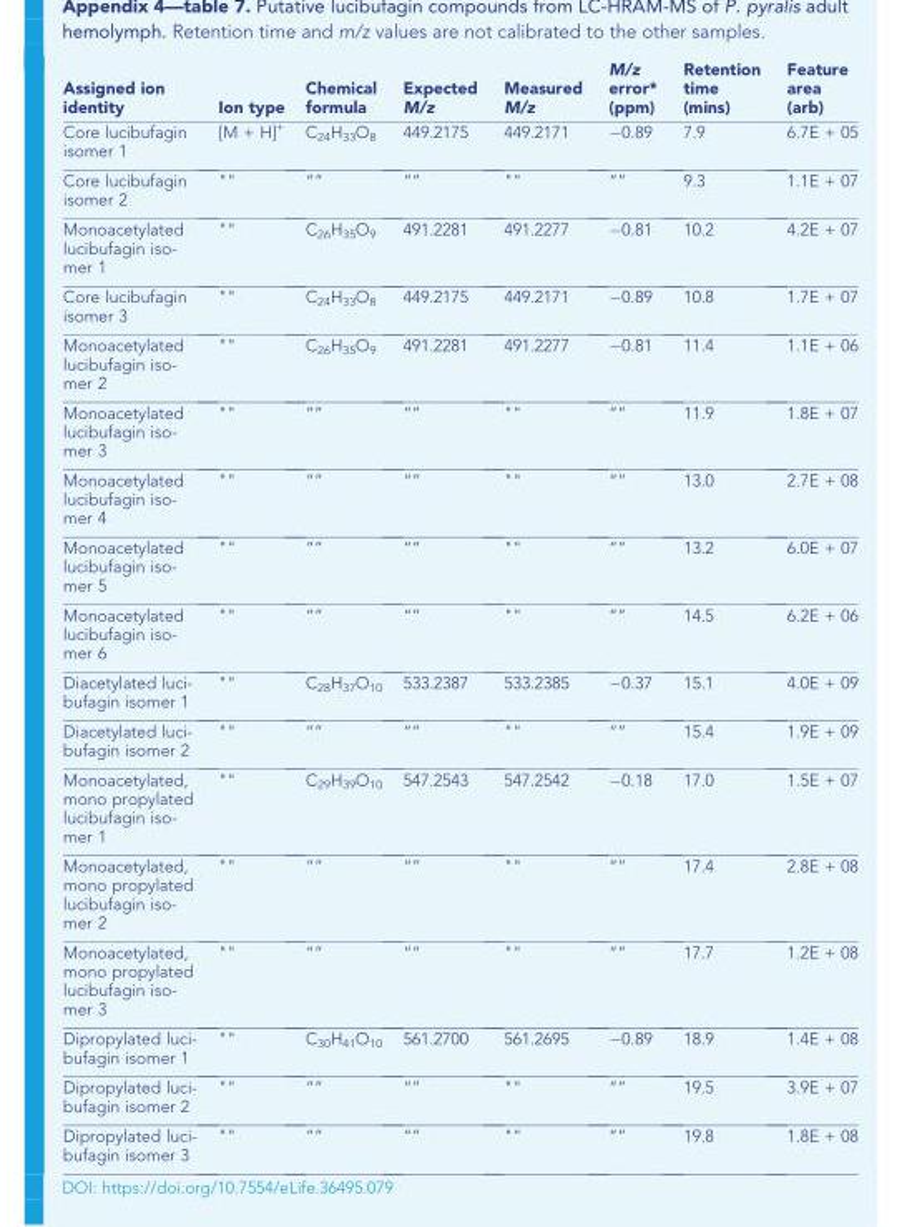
<table><thead><tr><td>Assigned ion identity</td><td>Ion type</td><td>Chemical formula</td><td>Expected M/z</td><td>Measured M/z</td><td>M/z error* (ppm)</td><td>Retention time (mins)</td><td>Feature area (arb)</td></tr></thead><tbody><tr><td>Core lucibufagin isomer 1</td><td>[M + H]<sup>+</sup></td><td>C<sub>24</sub>H<sub>33</sub>O<sub>8</sub></td><td>449.2175</td><td>449.2171</td><td>−0.89</td><td>7.9</td><td>6.7E + 05</td></tr><tr><td>Core lucibufagin isomer 2</td><td>&quot;&quot;</td><td>“”</td><td>“”</td><td>&quot;&quot;</td><td>“”</td><td>9.3</td><td>1.1E + 07</td></tr><tr><td>Monoacetylated lucibufagin iso- mer 1</td><td>&quot;&quot;</td><td>C<sub>26</sub>H<sub>35</sub>O<sub>9</sub></td><td>491.2281</td><td>491.2277</td><td>−0.81</td><td>10.2</td><td>4.2E + 07</td></tr><tr><td>Core lucibufagin isomer 3</td><td>&quot;&quot;</td><td>C<sub>24</sub>H<sub>33</sub>O<sub>8</sub></td><td>449.2175</td><td>449.2171</td><td>−0.89</td><td>10.8</td><td>1.7E + 07</td></tr><tr><td>Monoacetylated lucibufagin iso- mer 2</td><td>&quot;&quot;</td><td>C<sub>26</sub>H<sub>35</sub>O<sub>9</sub></td><td>491.2281</td><td>491.2277</td><td>−0.81</td><td>11.4</td><td>1.1E + 06</td></tr><tr><td>Monoacetylated lucibufagin iso- mer 3</td><td>&quot;&quot;</td><td>“”</td><td>“”</td><td>&quot;&quot;</td><td>“”</td><td>11.9</td><td>1.8E + 07</td></tr><tr><td>Monoacetylated lucibufagin iso- mer 4</td><td>&quot;&quot;</td><td>“”</td><td>“”</td><td>&quot;&quot;</td><td>“”</td><td>13.0</td><td>2.7E + 08</td></tr><tr><td>Monoacetylated lucibufagin iso- mer 5</td><td>&quot;&quot;</td><td>“”</td><td>“”</td><td>&quot;&quot;</td><td>“”</td><td>13.2</td><td>6.0E + 07</td></tr><tr><td>Monoacetylated lucibufagin iso- mer 6</td><td>&quot;&quot;</td><td>“”</td><td>“”</td><td>&quot;&quot;</td><td>“”</td><td>14.5</td><td>6.2E + 06</td></tr><tr><td>Diacetylated luci- bufagin isomer 1</td><td>&quot;&quot;</td><td>C<sub>28</sub>H<sub>37</sub>O<sub>10</sub></td><td>533.2387</td><td>533.2385</td><td>−0.37</td><td>15.1</td><td>4.0E + 09</td></tr><tr><td>Diacetylated luci- bufagin isomer 2</td><td>&quot;&quot;</td><td>“”</td><td>“”</td><td>&quot;&quot;</td><td>“”</td><td>15.4</td><td>1.9E + 09</td></tr><tr><td>Monoacetylated, mono propylated lucibufagin iso- mer 1</td><td>&quot;&quot;</td><td>C<sub>29</sub>H<sub>39</sub>O<sub>10</sub></td><td>547.2543</td><td>547.2542</td><td>−0.18</td><td>17.0</td><td>1.5E + 07</td></tr><tr><td>Monoacetylated, mono propylated lucibufagin iso- mer 2</td><td>&quot;&quot;</td><td>“”</td><td>“”</td><td>&quot;&quot;</td><td>“”</td><td>17.4</td><td>2.8E + 08</td></tr><tr><td>Monoacetylated, mono propylated lucibufagin iso- mer 3</td><td>&quot;&quot;</td><td>“”</td><td>“”</td><td>&quot;&quot;</td><td>“”</td><td>17.7</td><td>1.2E + 08</td></tr><tr><td>Dipropylated luci- bufagin isomer 1</td><td>&quot;&quot;</td><td>C<sub>30</sub>H<sub>41</sub>O<sub>10</sub></td><td>561.2700</td><td>561.2695</td><td>−0.89</td><td>18.9</td><td>1.4E + 08</td></tr><tr><td>Dipropylated luci- bufagin isomer 2</td><td>&quot;&quot;</td><td>“”</td><td>“”</td><td>&quot;&quot;</td><td>“”</td><td>19.5</td><td>3.9E + 07</td></tr><tr><td>Dipropylated luci- bufagin isomer 3</td><td>&quot;&quot;</td><td>“”</td><td>“”</td><td>&quot;&quot;</td><td>“”</td><td>19.8</td><td>1.8E + 08</td></tr></tbody></table>